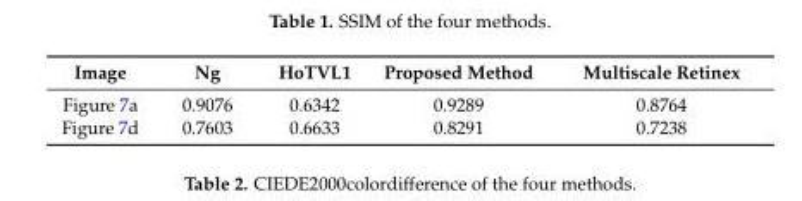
<table><thead><tr><td>Image</td><td>Ng</td><td>HoTVL1</td><td>Proposed Method</td><td>Multiscale Retinex</td></tr></thead><tbody><tr><td>Figure 7a</td><td>0.9076</td><td>0.6342</td><td>0.9289</td><td>0.8764</td></tr><tr><td>Figure 7d</td><td>0.7603</td><td>0.6633</td><td>0.8291</td><td>0.7238</td></tr></tbody></table>